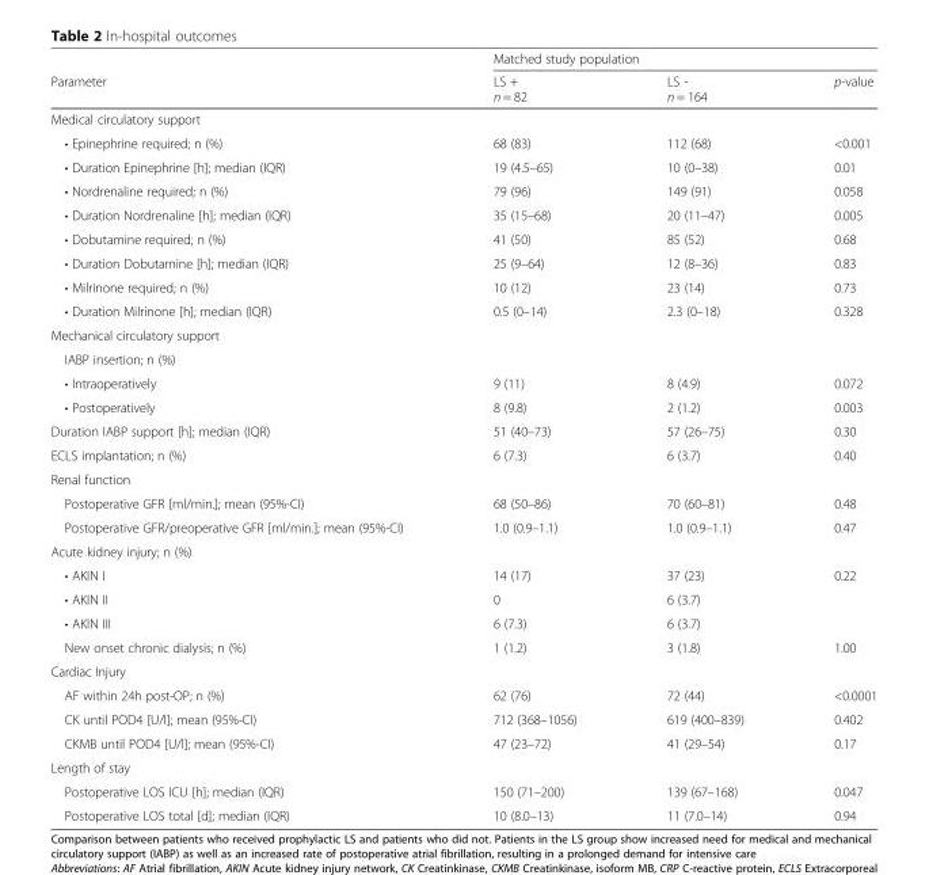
<table><thead><tr><td rowspan="2">Parameter</td><td colspan="3">Matched study population</td></tr><tr><td>LS + n = 82</td><td>LS - n = 164</td><td>p-value</td></tr></thead><tbody><tr><td colspan="4">Medical circulatory support</td></tr><tr><td>• Epinephrine required; n (%)</td><td>68 (83)</td><td>112 (68)</td><td>&lt;0.001</td></tr><tr><td>• Duration Epinephrine [h]; median (IQR)</td><td>19 (4.5–65)</td><td>10 (0–38)</td><td>0.01</td></tr><tr><td>• Nordrenaline required; n (%)</td><td>79 (96)</td><td>149 (91)</td><td>0.058</td></tr><tr><td>• Duration Nordrenaline [h]; median (IQR)</td><td>35 (15–68)</td><td>20 (11–47)</td><td>0.005</td></tr><tr><td>• Dobutamine required; n (%)</td><td>41 (50)</td><td>85 (52)</td><td>0.68</td></tr><tr><td>• Duration Dobutamine [h]; median (IQR)</td><td>25 (9–64)</td><td>12 (8–36)</td><td>0.83</td></tr><tr><td>• Milrinone required; n (%)</td><td>10 (12)</td><td>23 (14)</td><td>0.73</td></tr><tr><td>• Duration Milrinone [h]; median (IQR)</td><td>0.5 (0–14)</td><td>2.3 (0–18)</td><td>0.328</td></tr><tr><td colspan="4">Mechanical circulatory support</td></tr><tr><td colspan="4">IABP insertion; n (%)</td></tr><tr><td>• Intraoperatively</td><td>9 (11)</td><td>8 (4.9)</td><td>0.072</td></tr><tr><td>• Postoperatively</td><td>8 (9.8)</td><td>2 (1.2)</td><td>0.003</td></tr><tr><td>Duration IABP support [h]; median (IQR)</td><td>51 (40–73)</td><td>57 (26–75)</td><td>0.30</td></tr><tr><td>ECLS implantation; n (%)</td><td>6 (7.3)</td><td>6 (3.7)</td><td>0.40</td></tr><tr><td colspan="4">Renal function</td></tr><tr><td>Postoperative GFR [ml/min.]; mean (95%-CI)</td><td>68 (50–86)</td><td>70 (60–81)</td><td>0.48</td></tr><tr><td>Postoperative GFR/preoperative GFR [ml/min.]; mean (95%-CI)</td><td>1.0 (0.9–1.1)</td><td>1.0 (0.9–1.1)</td><td>0.47</td></tr><tr><td colspan="4">Acute kidney injury; n (%)</td></tr><tr><td>• AKIN I</td><td>14 (17)</td><td>37 (23)</td><td rowspan="3">0.22</td></tr><tr><td>• AKIN II</td><td>0</td><td>6 (3.7)</td></tr><tr><td>• AKIN III</td><td>6 (7.3)</td><td>6 (3.7)</td></tr><tr><td>New onset chronic dialysis; n (%)</td><td>1 (1.2)</td><td>3 (1.8)</td><td>1.00</td></tr><tr><td colspan="4">Cardiac Injury</td></tr><tr><td>AF within 24h post-OP; n (%)</td><td>62 (76)</td><td>72 (44)</td><td>&lt;0.0001</td></tr><tr><td>CK until POD4 [U/l]; mean (95%-CI)</td><td>712 (368–1056)</td><td>619 (400–839)</td><td>0.402</td></tr><tr><td>CKMB until POD4 [U/l]; mean (95%-CI)</td><td>47 (23–72)</td><td>41 (29–54)</td><td>0.17</td></tr><tr><td colspan="4">Length of stay</td></tr><tr><td>Postoperative LOS ICU [h]; median (IQR)</td><td>150 (71–200)</td><td>139 (67–168)</td><td>0.047</td></tr><tr><td>Postoperative LOS total [d]; median (IQR)</td><td>10 (8.0–13)</td><td>11 (7.0–14)</td><td>0.94</td></tr></tbody></table>